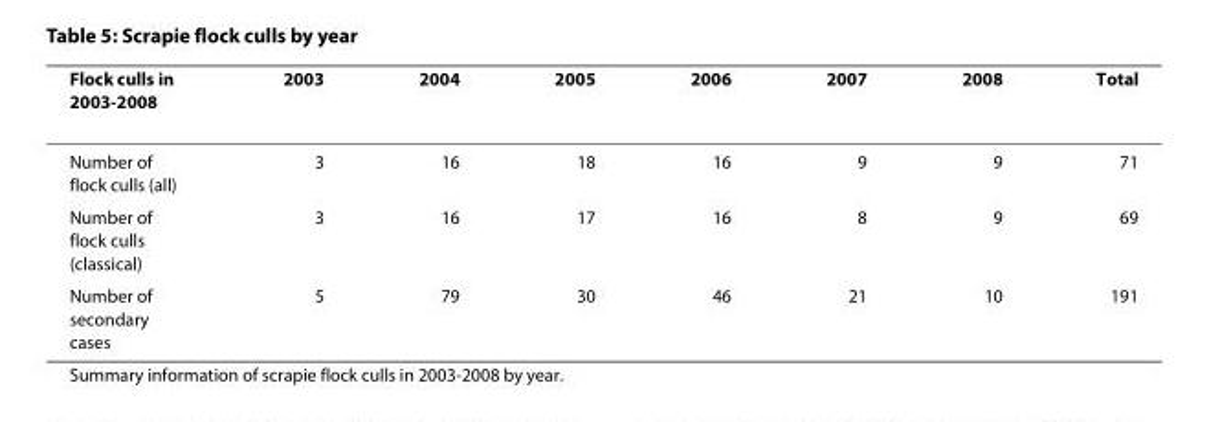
<table><thead><tr><td>Flock culls in 2003-2008</td><td>2003</td><td>2004</td><td>2005</td><td>2006</td><td>2007</td><td>2008</td><td>Total</td></tr></thead><tbody><tr><td>Number of flock culls (all)</td><td>3</td><td>16</td><td>18</td><td>16</td><td>9</td><td>9</td><td>71</td></tr><tr><td>Number of flock culls (classical)</td><td>3</td><td>16</td><td>17</td><td>16</td><td>8</td><td>9</td><td>69</td></tr><tr><td>Number of secondary cases</td><td>5</td><td>79</td><td>30</td><td>46</td><td>21</td><td>10</td><td>191</td></tr></tbody></table>